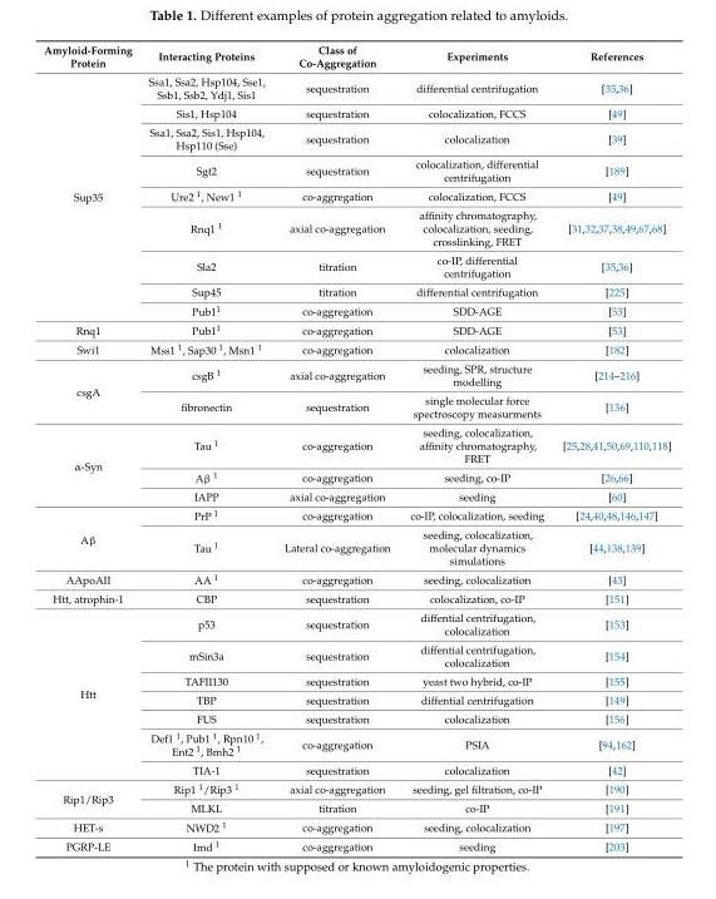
<table><thead><tr><td>Amyloid-Forming Protein</td><td>Interacting Proteins</td><td>Class of Co-Aggregation</td><td>Experiments</td><td>References</td></tr></thead><tbody><tr><td rowspan="9">Sup35</td><td>Ssa1, Ssa2, Hsp104, Sse1, Ssb1, Ssb2, Ydj1, Sis1</td><td>sequestration</td><td>differential centrifugation</td><td>[35,36]</td></tr><tr><td>Sis1, Hsp104</td><td>sequestration</td><td>colocalization, FCCS</td><td>[49]</td></tr><tr><td>Ssa1, Ssa2, Sis1, Hsp104, Hsp110 (Sse)</td><td>sequestration</td><td>colocalization</td><td>[39]</td></tr><tr><td>Sgt2</td><td>sequestration</td><td>colocalization, differential centrifugation</td><td>[189]</td></tr><tr><td>Ure2 <sup>1</sup>, New1 <sup>1</sup></td><td>co-aggregation</td><td>colocalization, FCCS</td><td>[49]</td></tr><tr><td>Rnq1 <sup>1</sup></td><td>axial co-aggregation</td><td>affinity chromatography, colocalization, seeding, crosslinking, FRET</td><td>[31,32,37,38,49,67,68]</td></tr><tr><td>Sla2</td><td>titration</td><td>co-IP, differential centrifugation</td><td>[35,36]</td></tr><tr><td>Sup45</td><td>titration</td><td>differential centrifugation</td><td>[225]</td></tr><tr><td>Pub1<sup>1</sup></td><td>co-aggregation</td><td>SDD-AGE</td><td>[53]</td></tr><tr><td>Rnq1</td><td>Pub1<sup>1</sup></td><td>co-aggregation</td><td>SDD-AGE</td><td>[53]</td></tr><tr><td>Swi1</td><td>Mss1 <sup>1</sup>, Sap30 <sup>1</sup>, Msn1 <sup>1</sup></td><td>co-aggregation</td><td>colocalization</td><td>[182]</td></tr><tr><td rowspan="2">csgA</td><td>csgB <sup>1</sup></td><td>axial co-aggregation</td><td>seeding, SPR, structure modelling</td><td>[214–216]</td></tr><tr><td>fibronectin</td><td>sequestration</td><td>single molecular force spectroscopy measurments</td><td>[136]</td></tr><tr><td rowspan="3">α-Syn</td><td>Tau <sup>1</sup></td><td>co-aggregation</td><td>seeding, colocalization, affinity chromatography, FRET</td><td>[25,28,41,50,69,110,118]</td></tr><tr><td>Aβ <sup>1</sup></td><td>co-aggregation</td><td>seeding, co-IP</td><td>[26,66]</td></tr><tr><td>IAPP</td><td>axial co-aggregation</td><td>seeding</td><td>[60]</td></tr><tr><td rowspan="2">Aβ</td><td>PrP <sup>1</sup></td><td>co-aggregation</td><td>co-IP, colocalization, seeding</td><td>[24,40,48,146,147]</td></tr><tr><td>Tau <sup>1</sup></td><td>Lateral co-aggregation</td><td>seeding, colocalization, molecular dynamics simulations</td><td>[44,138,139]</td></tr><tr><td>AApoAII</td><td>AA <sup>1</sup></td><td>co-aggregation</td><td>seeding, colocalization</td><td>[43]</td></tr><tr><td>Htt, atrophin-1</td><td>CBP</td><td>sequestration</td><td>colocalization, co-IP</td><td>[151]</td></tr><tr><td rowspan="7">Htt</td><td>p53</td><td>sequestration</td><td>diffential centrifugation, colocalization</td><td>[153]</td></tr><tr><td>mSin3a</td><td>sequestration</td><td>diffential centrifugation, colocalization</td><td>[154]</td></tr><tr><td>TAFII130</td><td>sequestration</td><td>yeast two hybrid, co-IP</td><td>[155]</td></tr><tr><td>TBP</td><td>sequestration</td><td>diffential centrifugation</td><td>[149]</td></tr><tr><td>FUS</td><td>sequestration</td><td>colocalization</td><td>[156]</td></tr><tr><td>Def1 <sup>1</sup>, Pub1 <sup>1</sup>, Rpn10 <sup>1</sup>, Ent2 <sup>1</sup>, Bmh2 <sup>1</sup></td><td>co-aggregation</td><td>PSIA</td><td>[94,162]</td></tr><tr><td>TIA-1</td><td>sequestration</td><td>colocalization</td><td>[42]</td></tr><tr><td rowspan="2">Rip1/Rip3</td><td>Rip1 <sup>1</sup>/Rip3 <sup>1</sup></td><td>axial co-aggregation</td><td>seeding, gel filtration, co-IP</td><td>[190]</td></tr><tr><td>MLKL</td><td>titration</td><td>co-IP</td><td>[191]</td></tr><tr><td>HET-s</td><td>NWD2 <sup>1</sup></td><td>co-aggregation</td><td>seeding, colocalization</td><td>[197]</td></tr><tr><td>PGRP-LE</td><td>Imd <sup>1</sup></td><td>co-aggregation</td><td>seeding</td><td>[203]</td></tr></tbody></table>